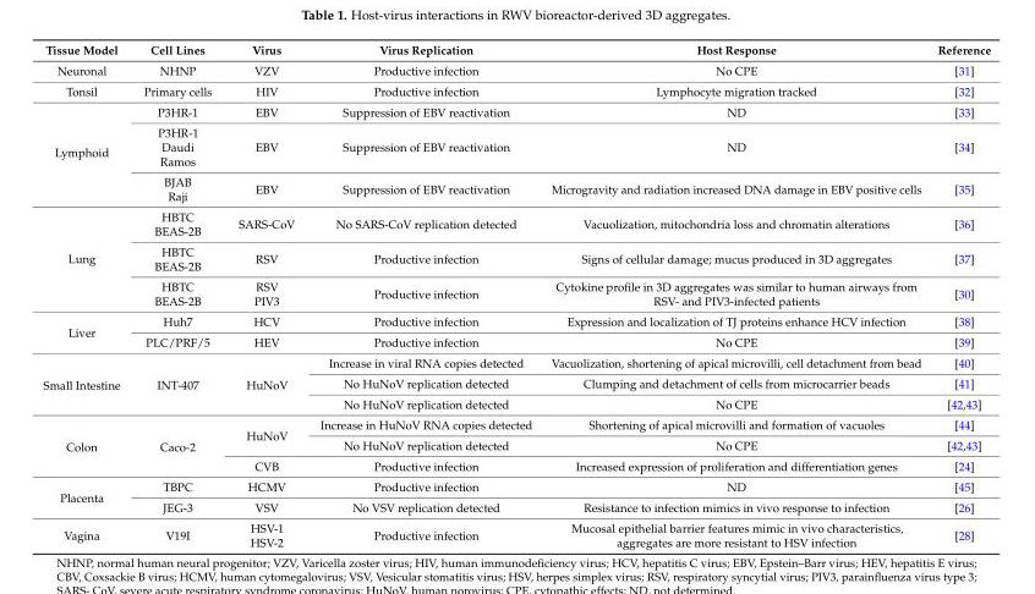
<table><thead><tr><td>Tissue Model</td><td>Cell Lines</td><td>Virus</td><td>Virus Replication</td><td>Host Response</td><td>Reference</td></tr></thead><tbody><tr><td>Neuronal</td><td>NHNP</td><td>VZV</td><td>Productive infection</td><td>No CPE</td><td>[31]</td></tr><tr><td>Tonsil</td><td>Primary cells</td><td>HIV</td><td>Productive infection</td><td>Lymphocyte migration tracked</td><td>[32]</td></tr><tr><td rowspan="3">Lymphoid</td><td>P3HR-1</td><td>EBV</td><td>Suppression of EBV reactivation</td><td>ND</td><td>[33]</td></tr><tr><td>P3HR-1 Daudi Ramos</td><td>EBV</td><td>Suppression of EBV reactivation</td><td>ND</td><td>[34]</td></tr><tr><td>BJAB Raji</td><td>EBV</td><td>Suppression of EBV reactivation</td><td>Microgravity and radiation increased DNA damage in EBV positive cells</td><td>[35]</td></tr><tr><td rowspan="3">Lung</td><td>HBTC BEAS-2B</td><td>SARS-CoV</td><td>No SARS-CoV replication detected</td><td>Vacuolization, mitochondria loss and chromatin alterations</td><td>[36]</td></tr><tr><td>HBTC BEAS-2B</td><td>RSV</td><td>Productive infection</td><td>Signs of cellular damage; mucus produced in 3D aggregates</td><td>[37]</td></tr><tr><td>HBTC BEAS-2B</td><td>RSV PIV3</td><td>Productive infection</td><td>Cytokine profile in 3D aggregates was similar to human airways from RSV- and PIV3-infected patients</td><td>[30]</td></tr><tr><td rowspan="2">Liver</td><td>Huh7</td><td>HCV</td><td>Productive infection</td><td>Expression and localization of TJ proteins enhance HCV infection</td><td>[38]</td></tr><tr><td>PLC/PRF/5</td><td>HEV</td><td>Productive infection</td><td>No CPE</td><td>[39]</td></tr><tr><td rowspan="3">Small Intestine</td><td rowspan="3">INT-407</td><td rowspan="3">HuNoV</td><td>Increase in viral RNA copies detected</td><td>Vacuolization, shortening of apical microvilli, cell detachment from bead</td><td>[40]</td></tr><tr><td>No HuNoV replication detected</td><td>Clumping and detachment of cells from microcarrier beads</td><td>[41]</td></tr><tr><td>No HuNoV replication detected</td><td>No CPE</td><td>[42,43]</td></tr><tr><td rowspan="3">Colon</td><td rowspan="3">Caco-2</td><td rowspan="2">HuNoV</td><td>Increase in HuNoV RNA copies detected</td><td>Shortening of apical microvilli and formation of vacuoles</td><td>[44]</td></tr><tr><td>No HuNoV replication detected</td><td>No CPE</td><td>[42,43]</td></tr><tr><td>CVB</td><td>Productive infection</td><td>Increased expression of proliferation and differentiation genes</td><td>[24]</td></tr><tr><td rowspan="2">Placenta</td><td>TBPC</td><td>HCMV</td><td>Productive infection</td><td>ND</td><td>[45]</td></tr><tr><td>JEG-3</td><td>VSV</td><td>No VSV replication detected</td><td>Resistance to infection mimics in vivo response to infection</td><td>[26]</td></tr><tr><td>Vagina</td><td>V19I</td><td>HSV-1 HSV-2</td><td>Productive infection</td><td>Mucosal epithelial barrier features mimic in vivo characteristics, aggregates are more resistant to HSV infection</td><td>[28]</td></tr></tbody></table>